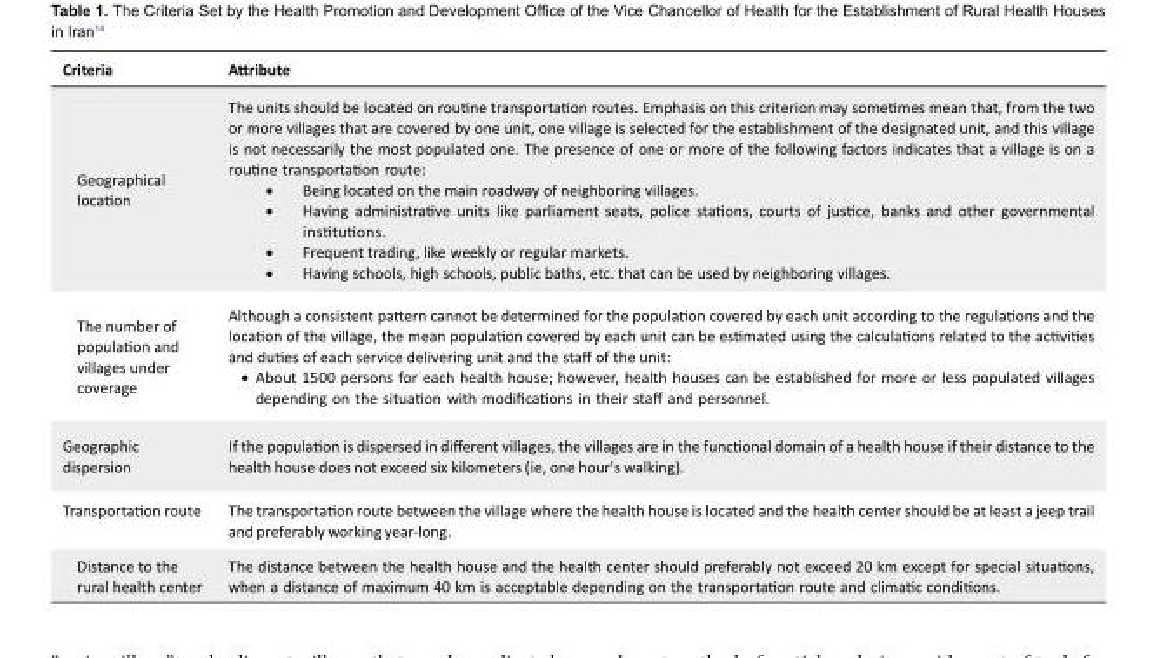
<table><tbody><tr><td>Criteria</td><td>Attribute</td></tr><tr><td>Geographical location</td><td>The units should be located on routine transportation routes. Emphasis on this criterion may sometimes mean that, from the two or more villages that are covered by one unit, one village is selected for the establishment of the designated unit, and this village is not necessarily the most populated one. The presence of one or more of the following factors indicates that a village is on a routine transportation route: · Being located on the main roadway of neighboring villages. · Having administrative units like parliament seats, police stations, courts of justice, banks and other governmental institutions. · Frequent trading, like weekly or regular markets. · Having schools, high schools, public baths, etc. that can be used by neighboring villages.</td></tr><tr><td>The number of population and villages under coverage</td><td>Although a consistent pattern cannot be determined for the population covered by each unit according to the regulations and the location of the village, the mean population covered by each unit can be estimated using the calculations related to the activities and duties of each service delivering unit and the staff of the unit: · About 1500 persons for each health house; however, health houses can be established for more or less populated villages depending on the situation with modifications in their staff and personnel.</td></tr><tr><td>Geographic dispersion</td><td>If the population is dispersed in different villages, the villages are in the functional domain of a health house if their distance to the health house does not exceed six kilometers (ie, one hour&#x27;s walking).</td></tr><tr><td>Transportation route</td><td>The transportation route between the village where the health house is located and the health center should be at least a jeep trail and preferably working year-long.</td></tr><tr><td>Distance to the rural health center</td><td>The distance between the health house and the health center should preferably not exceed 20 km except for special situations, when a distance of maximum 40 km is acceptable depending on the transportation route and climatic conditions.</td></tr></tbody></table>